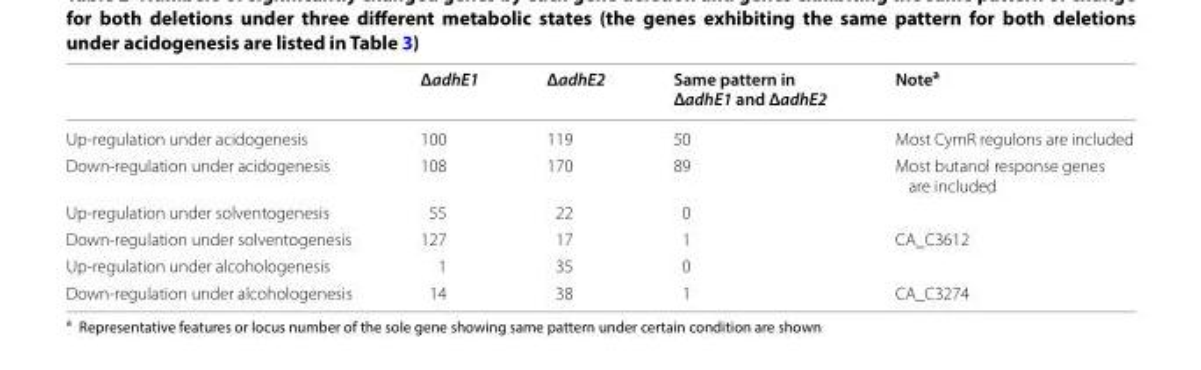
<table><thead><tr><td></td><td>ΔadhE1</td><td>ΔadhE2</td><td>Same pattern in ΔadhE1 and ΔadhE2</td><td>Note<sup>a</sup></td></tr></thead><tbody><tr><td>Up‑regulation under acidogenesis</td><td>100</td><td>119</td><td>50</td><td>Most CymR regulons are included</td></tr><tr><td>Down‑regulation under acidogenesis</td><td>108</td><td>170</td><td>89</td><td>Most butanol response genes are included</td></tr><tr><td>Up‑regulation under solventogenesis</td><td>55</td><td>22</td><td>0</td><td></td></tr><tr><td>Down‑regulation under solventogenesis</td><td>127</td><td>17</td><td>1</td><td>CA_C3612</td></tr><tr><td>Up‑regulation under alcohologenesis</td><td>1</td><td>35</td><td>0</td><td></td></tr><tr><td>Down‑regulation under alcohologenesis</td><td>14</td><td>38</td><td>1</td><td>CA_C3274</td></tr></tbody></table>